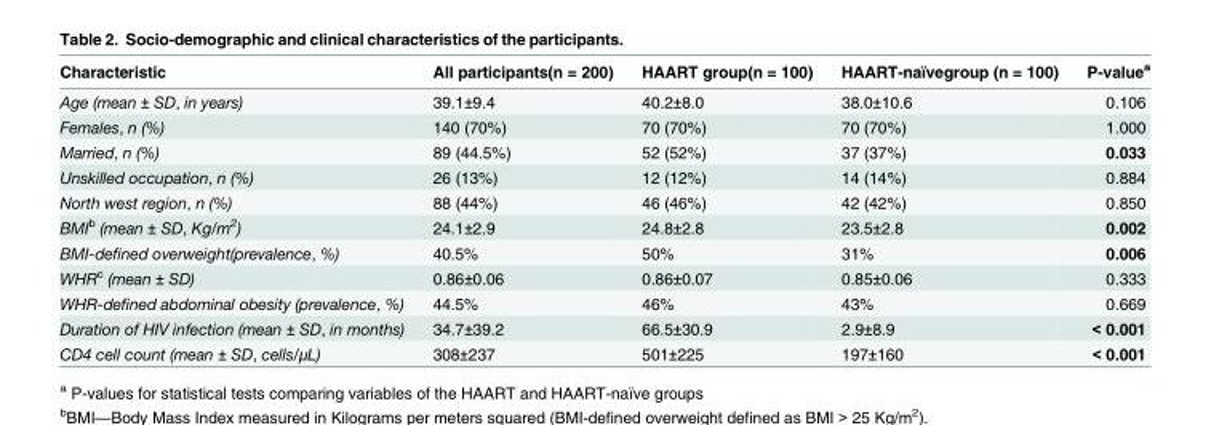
<table><thead><tr><td>Characteristic</td><td>All participants(n = 200)</td><td>HAART group(n = 100)</td><td>HAART-naïvegroup (n = 100)</td><td>P-value<sup>a</sup></td></tr></thead><tbody><tr><td>Age (mean ± SD, in years)</td><td>39.1±9.4</td><td>40.2±8.0</td><td>38.0±10.6</td><td>0.106</td></tr><tr><td>Females, n (%)</td><td>140 (70%)</td><td>70 (70%)</td><td>70 (70%)</td><td>1.000</td></tr><tr><td>Married, n (%)</td><td>89 (44.5%)</td><td>52 (52%)</td><td>37 (37%)</td><td>0.033</td></tr><tr><td>Unskilled occupation, n (%)</td><td>26 (13%)</td><td>12 (12%)</td><td>14 (14%)</td><td>0.884</td></tr><tr><td>North west region, n (%)</td><td>88 (44%)</td><td>46 (46%)</td><td>42 (42%)</td><td>0.850</td></tr><tr><td>BMI<sup>b</sup> (mean ± SD, Kg/m<sup>2</sup>)</td><td>24.1±2.9</td><td>24.8±2.8</td><td>23.5±2.8</td><td>0.002</td></tr><tr><td>BMI-defined overweight(prevalence, %)</td><td>40.5%</td><td>50%</td><td>31%</td><td>0.006</td></tr><tr><td>WHR<sup>c</sup> (mean ± SD)</td><td>0.86±0.06</td><td>0.86±0.07</td><td>0.85±0.06</td><td>0.333</td></tr><tr><td>WHR-defined abdominal obesity (prevalence, %)</td><td>44.5%</td><td>46%</td><td>43%</td><td>0.669</td></tr><tr><td>Duration of HIV infection (mean ± SD, in months)</td><td>34.7±39.2</td><td>66.5±30.9</td><td>2.9±8.9</td><td>&lt; 0.001</td></tr><tr><td>CD4 cell count (mean ± SD, cells/μL)</td><td>308±237</td><td>501±225</td><td>197±160</td><td>&lt; 0.001</td></tr></tbody></table>